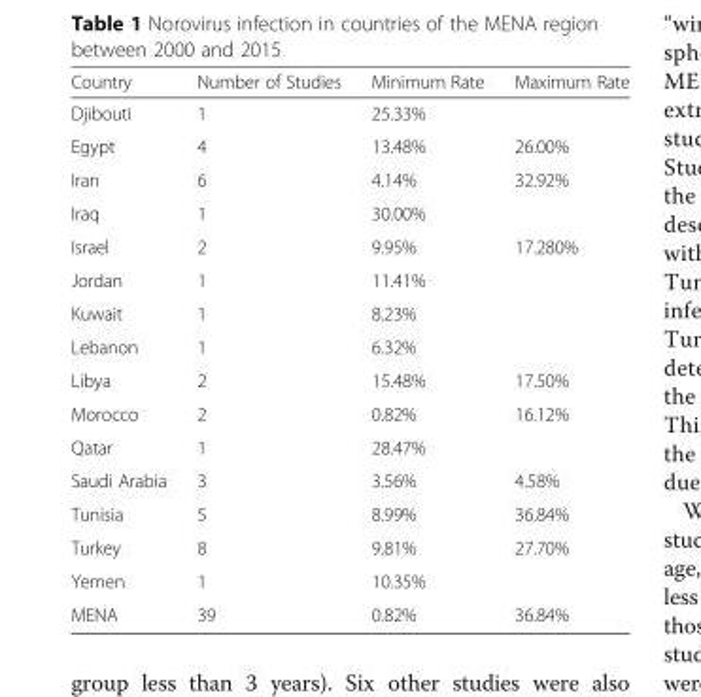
<table><thead><tr><td>Country</td><td>Number of Studies</td><td>Minimum Rate</td><td>Maximum Rate</td></tr></thead><tbody><tr><td>Djibouti</td><td>1</td><td colspan="2">25.33%</td></tr><tr><td>Egypt</td><td>4</td><td>13.48%</td><td>26.00%</td></tr><tr><td>Iran</td><td>6</td><td>4.14%</td><td>32.92%</td></tr><tr><td>Iraq</td><td>1</td><td colspan="2">30.00%</td></tr><tr><td>Israel</td><td>2</td><td>9.95%</td><td>17.280%</td></tr><tr><td>Jordan</td><td>1</td><td colspan="2">11.41%</td></tr><tr><td>Kuwait</td><td>1</td><td colspan="2">8.23%</td></tr><tr><td>Lebanon</td><td>1</td><td colspan="2">6.32%</td></tr><tr><td>Libya</td><td>2</td><td>15.48%</td><td>17.50%</td></tr><tr><td>Morocco</td><td>2</td><td>0.82%</td><td>16.12%</td></tr><tr><td>Qatar</td><td>1</td><td colspan="2">28.47%</td></tr><tr><td>Saudi Arabia</td><td>3</td><td>3.56%</td><td>4.58%</td></tr><tr><td>Tunisia</td><td>5</td><td>8.99%</td><td>36.84%</td></tr><tr><td>Turkey</td><td>8</td><td>9.81%</td><td>27.70%</td></tr><tr><td>Yemen</td><td>1</td><td colspan="2">10.35%</td></tr><tr><td>MENA</td><td>39</td><td>0.82%</td><td>36.84%</td></tr></tbody></table>